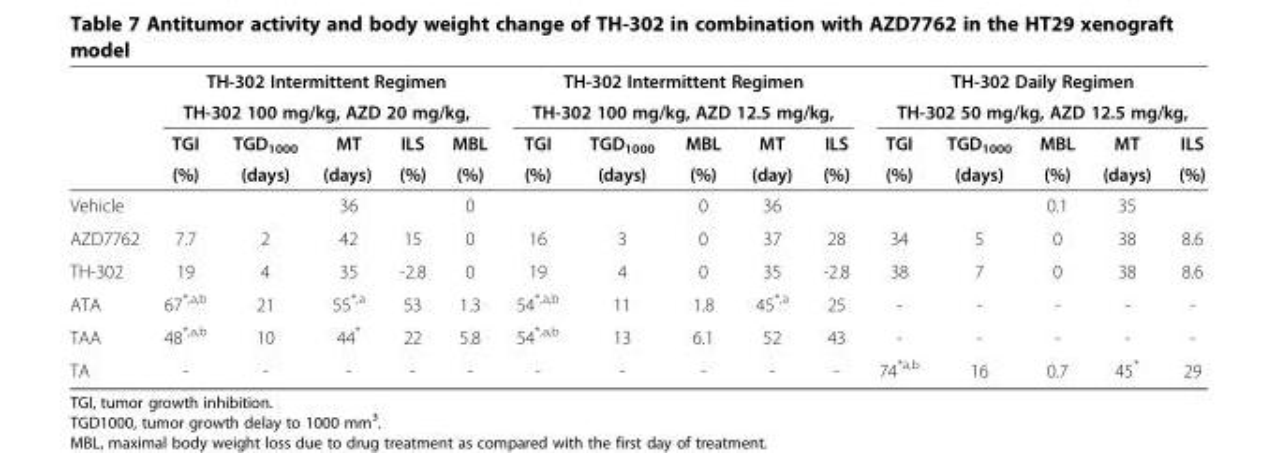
<table><thead><tr><td rowspan="4"></td><td rowspan="2" colspan="5">TH-302 Intermittent Regimen TH-302 100 mg/kg, AZD 20 mg/kg,</td><td rowspan="2" colspan="5">TH-302 Intermittent Regimen TH-302 100 mg/kg, AZD 12.5 mg/kg,</td><td rowspan="2" colspan="5">TH-302 Daily Regimen TH-302 50 mg/kg, AZD 12.5 mg/kg,</td></tr><tr></tr><tr><td rowspan="2">TGI (%)</td><td rowspan="2">TGD<sub>1000</sub> (days)</td><td rowspan="2">MT (days)</td><td rowspan="2">ILS (%)</td><td rowspan="2">MBL (%)</td><td rowspan="2">TGI (%)</td><td rowspan="2">TGD<sub>1000</sub> (days)</td><td rowspan="2">MBL (%)</td><td rowspan="2">MT (day)</td><td rowspan="2">ILS (%)</td><td rowspan="2">TGI (%)</td><td rowspan="2">TGD<sub>1000</sub> (days)</td><td rowspan="2">MBL (%)</td><td rowspan="2">MT (days)</td><td rowspan="2">ILS (%)</td></tr><tr></tr></thead><tbody><tr><td>Vehicle</td><td></td><td></td><td>36</td><td></td><td>0</td><td></td><td></td><td>0</td><td>36</td><td></td><td></td><td></td><td>0.1</td><td>35</td><td></td></tr><tr><td>AZD7762</td><td>7.7</td><td>2</td><td>42</td><td>15</td><td>0</td><td>16</td><td>3</td><td>0</td><td>37</td><td>28</td><td>34</td><td>5</td><td>0</td><td>38</td><td>8.6</td></tr><tr><td>TH-302</td><td>19</td><td>4</td><td>35</td><td>-2.8</td><td>0</td><td>19</td><td>4</td><td>0</td><td>35</td><td>-2.8</td><td>38</td><td>7</td><td>0</td><td>38</td><td>8.6</td></tr><tr><td>ATA</td><td>67<sup>*,a,b</sup></td><td>21</td><td>55<sup>*,a</sup></td><td>53</td><td>1.3</td><td>54<sup>*,a,b</sup></td><td>11</td><td>1.8</td><td>45<sup>*,a</sup></td><td>25</td><td>-</td><td>-</td><td>-</td><td>-</td><td>-</td></tr><tr><td>TAA</td><td>48<sup>*,a,b</sup></td><td>10</td><td>44*</td><td>22</td><td>5.8</td><td>54<sup>*,a,b</sup></td><td>13</td><td>6.1</td><td>52</td><td>43</td><td>-</td><td>-</td><td>-</td><td>-</td><td>-</td></tr><tr><td>TA</td><td>-</td><td>-</td><td>-</td><td>-</td><td>-</td><td>-</td><td>-</td><td>-</td><td>-</td><td>-</td><td>74<sup>*a,b</sup></td><td>16</td><td>0.7</td><td>45*</td><td>29</td></tr></tbody></table>